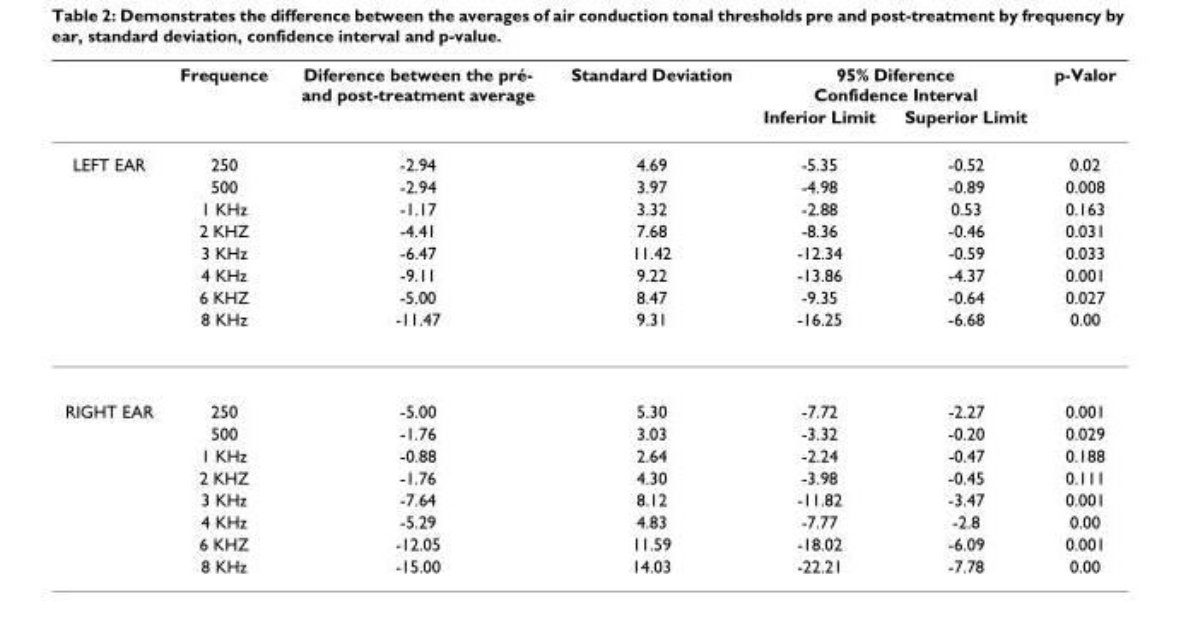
<table><thead><tr><td rowspan="2"></td><td rowspan="2">Frequence</td><td rowspan="2">Diference between the pré- and post-treatment average</td><td rowspan="2">Standard Deviation</td><td colspan="2">95% Diference Confidence Interval</td><td rowspan="2">p-Valor</td></tr><tr><td>Inferior Limit</td><td>Superior Limit</td></tr></thead><tbody><tr><td rowspan="8">LEFT EAR</td><td>250</td><td>-2.94</td><td>4.69</td><td>-5.35</td><td>-0.52</td><td>0.02</td></tr><tr><td>500</td><td>-2.94</td><td>3.97</td><td>-4.98</td><td>-0.89</td><td>0.008</td></tr><tr><td>1 KHz</td><td>-1.17</td><td>3.32</td><td>-2.88</td><td>0.53</td><td>0.163</td></tr><tr><td>2 KHZ</td><td>-4.41</td><td>7.68</td><td>-8.36</td><td>-0.46</td><td>0.031</td></tr><tr><td>3 KHz</td><td>-6.47</td><td>11.42</td><td>-12.34</td><td>-0.59</td><td>0.033</td></tr><tr><td>4 KHz</td><td>-9.11</td><td>9.22</td><td>-13.86</td><td>-4.37</td><td>0.001</td></tr><tr><td>6 KHZ</td><td>-5.00</td><td>8.47</td><td>-9.35</td><td>-0.64</td><td>0.027</td></tr><tr><td>8 KHz</td><td>-11.47</td><td>9.31</td><td>-16.25</td><td>-6.68</td><td>0.00</td></tr><tr><td rowspan="8">RIGHT EAR</td><td>250</td><td>-5.00</td><td>5.30</td><td>-7.72</td><td>-2.27</td><td>0.001</td></tr><tr><td>500</td><td>-1.76</td><td>3.03</td><td>-3.32</td><td>-0.20</td><td>0.029</td></tr><tr><td>1 KHz</td><td>-0.88</td><td>2.64</td><td>-2.24</td><td>-0.47</td><td>0.188</td></tr><tr><td>2 KHZ</td><td>-1.76</td><td>4.30</td><td>-3.98</td><td>-0.45</td><td>0.111</td></tr><tr><td>3 KHz</td><td>-7.64</td><td>8.12</td><td>-11.82</td><td>-3.47</td><td>0.001</td></tr><tr><td>4 KHz</td><td>-5.29</td><td>4.83</td><td>-7.77</td><td>-2.8</td><td>0.00</td></tr><tr><td>6 KHZ</td><td>-12.05</td><td>11.59</td><td>-18.02</td><td>-6.09</td><td>0.001</td></tr><tr><td>8 KHz</td><td>-15.00</td><td>14.03</td><td>-22.21</td><td>-7.78</td><td>0.00</td></tr></tbody></table>